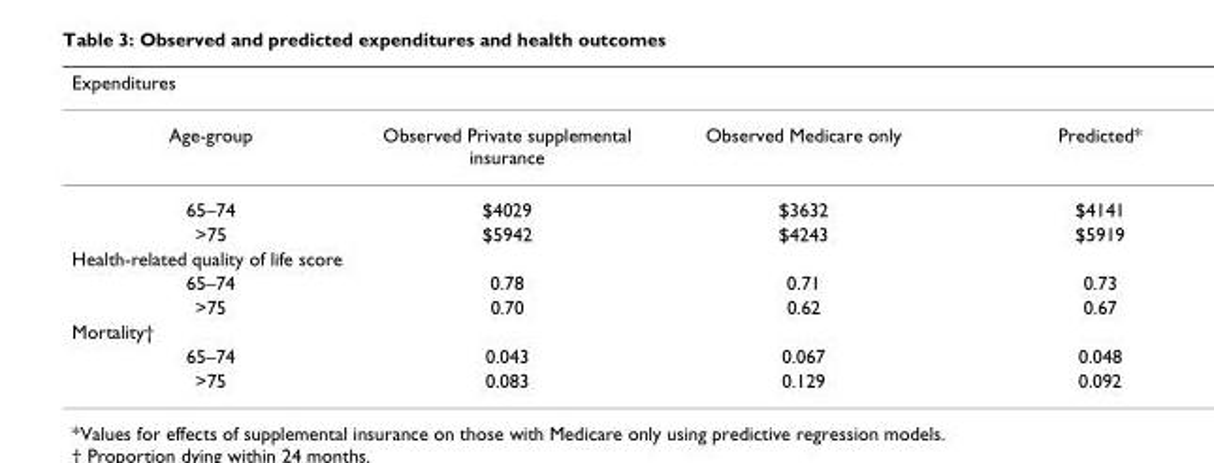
<table><thead><tr><td colspan="4">Expenditures</td></tr><tr><td>Age-group</td><td>Observed Private supplemental insurance</td><td>Observed Medicare only</td><td>Predicted*</td></tr></thead><tbody><tr><td>65–74</td><td>$4029</td><td>$3632</td><td>$4141</td></tr><tr><td>&gt;75</td><td>$5942</td><td>$4243</td><td>$5919</td></tr><tr><td colspan="4">Health-related quality of life score</td></tr><tr><td>65–74</td><td>0.78</td><td>0.71</td><td>0.73</td></tr><tr><td>&gt;75</td><td>0.70</td><td>0.62</td><td>0.67</td></tr><tr><td colspan="4">Mortality†</td></tr><tr><td>65–74</td><td>0.043</td><td>0.067</td><td>0.048</td></tr><tr><td>&gt;75</td><td>0.083</td><td>0.129</td><td>0.092</td></tr></tbody></table>